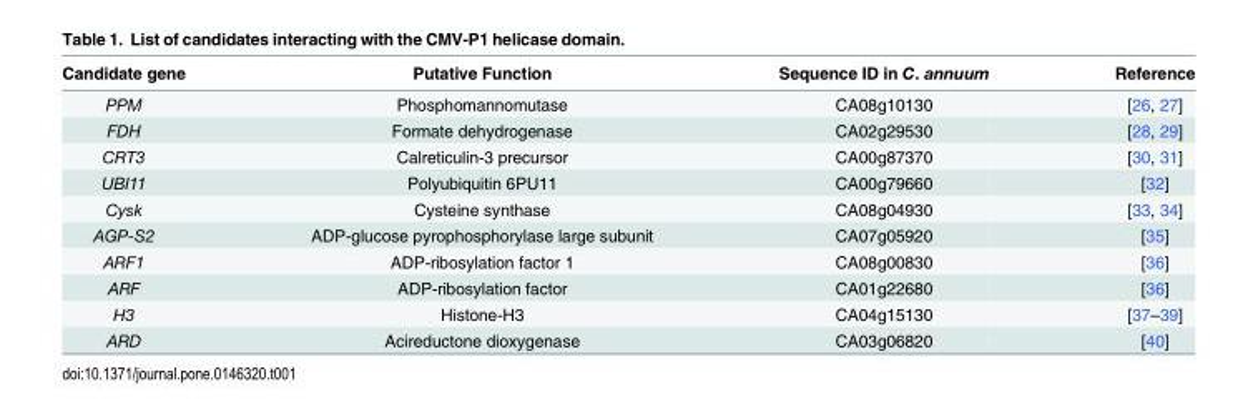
<table><thead><tr><td>Candidate gene</td><td>Putative Function</td><td>Sequence ID in C. annuum</td><td>Reference</td></tr></thead><tbody><tr><td>PPM</td><td>Phosphomannomutase</td><td>CA08g10130</td><td>[26, 27]</td></tr><tr><td>FDH</td><td>Formate dehydrogenase</td><td>CA02g29530</td><td>[28, 29]</td></tr><tr><td>CRT3</td><td>Calreticulin-3 precursor</td><td>CA00g87370</td><td>[30, 31]</td></tr><tr><td>UBI11</td><td>Polyubiquitin 6PU11</td><td>CA00g79660</td><td>[32]</td></tr><tr><td>Cysk</td><td>Cysteine synthase</td><td>CA08g04930</td><td>[33, 34]</td></tr><tr><td>AGP-S2</td><td>ADP-glucose pyrophosphorylase large subunit</td><td>CA07g05920</td><td>[35]</td></tr><tr><td>ARF1</td><td>ADP-ribosylation factor 1</td><td>CA08g00830</td><td>[36]</td></tr><tr><td>ARF</td><td>ADP-ribosylation factor</td><td>CA01g22680</td><td>[36]</td></tr><tr><td>H3</td><td>Histone-H3</td><td>CA04g15130</td><td>[37–39]</td></tr><tr><td>ARD</td><td>Acireductone dioxygenase</td><td>CA03g06820</td><td>[40]</td></tr></tbody></table>